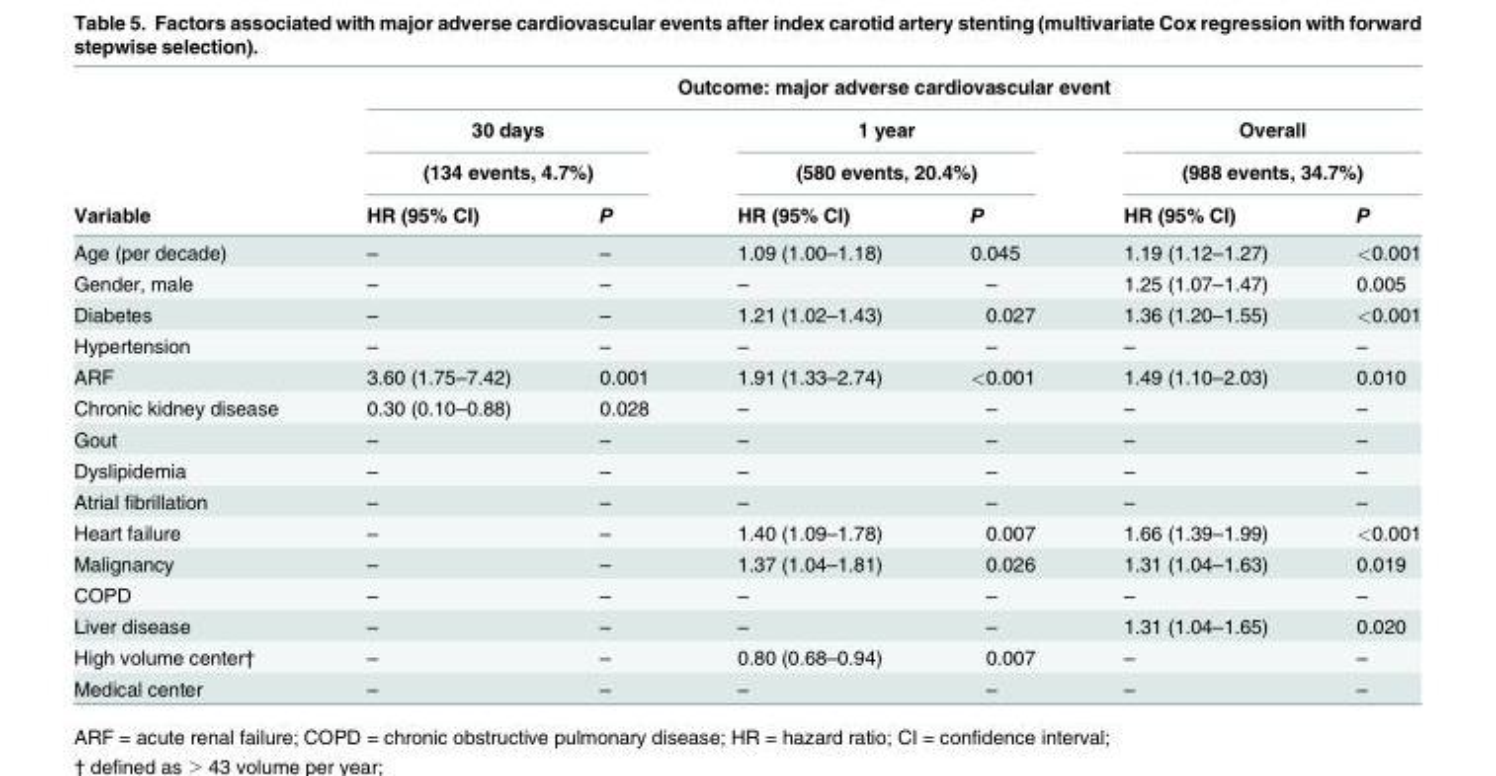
<table><thead><tr><td rowspan="4">Variable</td><td colspan="6">Outcome: major adverse cardiovascular event</td></tr><tr><td rowspan="2" colspan="2">30 days (134 events, 4.7%)</td><td rowspan="2" colspan="2">1 year (580 events, 20.4%)</td><td rowspan="2" colspan="2">Overall (988 events, 34.7%)</td></tr><tr></tr><tr><td>HR (95% CI)</td><td>P</td><td>HR (95% CI)</td><td>P</td><td>HR (95% CI)</td><td>P</td></tr></thead><tbody><tr><td>Age (per decade)</td><td>–</td><td>–</td><td>1.09 (1.00–1.18)</td><td>0.045</td><td>1.19 (1.12–1.27)</td><td>&lt;0.001</td></tr><tr><td>Gender, male</td><td>–</td><td>–</td><td>–</td><td>–</td><td>1.25 (1.07–1.47)</td><td>0.005</td></tr><tr><td>Diabetes</td><td>–</td><td>–</td><td>1.21 (1.02–1.43)</td><td>0.027</td><td>1.36 (1.20–1.55)</td><td>&lt;0.001</td></tr><tr><td>Hypertension</td><td>–</td><td>–</td><td>–</td><td>–</td><td>–</td><td>–</td></tr><tr><td>ARF</td><td>3.60 (1.75–7.42)</td><td>0.001</td><td>1.91 (1.33–2.74)</td><td>&lt;0.001</td><td>1.49 (1.10–2.03)</td><td>0.010</td></tr><tr><td>Chronic kidney disease</td><td>0.30 (0.10–0.88)</td><td>0.028</td><td>–</td><td>–</td><td>–</td><td>–</td></tr><tr><td>Gout</td><td>–</td><td>–</td><td>–</td><td>–</td><td>–</td><td>–</td></tr><tr><td>Dyslipidemia</td><td>–</td><td>–</td><td>–</td><td>–</td><td>–</td><td>–</td></tr><tr><td>Atrial fibrillation</td><td>–</td><td>–</td><td>–</td><td>–</td><td>–</td><td>–</td></tr><tr><td>Heart failure</td><td>–</td><td>–</td><td>1.40 (1.09–1.78)</td><td>0.007</td><td>1.66 (1.39–1.99)</td><td>&lt;0.001</td></tr><tr><td>Malignancy</td><td>–</td><td>–</td><td>1.37 (1.04–1.81)</td><td>0.026</td><td>1.31 (1.04–1.63)</td><td>0.019</td></tr><tr><td>COPD</td><td>–</td><td>–</td><td>–</td><td>–</td><td>–</td><td>–</td></tr><tr><td>Liver disease</td><td>–</td><td>–</td><td>–</td><td>–</td><td>1.31 (1.04–1.65)</td><td>0.020</td></tr><tr><td>High volume center†</td><td>–</td><td>–</td><td>0.80 (0.68–0.94)</td><td>0.007</td><td>–</td><td>–</td></tr><tr><td>Medical center</td><td>–</td><td>–</td><td>–</td><td>–</td><td>–</td><td>–</td></tr></tbody></table>